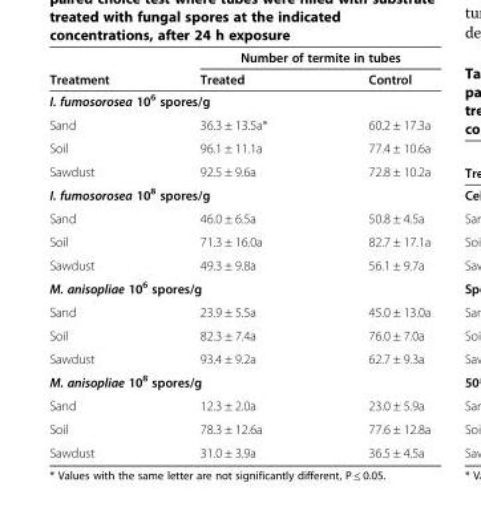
<table><thead><tr><td rowspan="2">Treatment</td><td colspan="2">Number of termite in tubes</td></tr><tr><td>Treated</td><td>Control</td></tr></thead><tbody><tr><td colspan="3">I. fumosorosea 10<sup>6</sup> spores/g</td></tr><tr><td>Sand</td><td>36.3 ± 13.5a*</td><td>60.2 ± 17.3a</td></tr><tr><td>Soil</td><td>96.1 ± 11.1a</td><td>77.4 ± 10.6a</td></tr><tr><td>Sawdust</td><td>92.5 ± 9.6a</td><td>72.8 ± 10.2a</td></tr><tr><td colspan="3">I. fumosorosea 10<sup>8</sup> spores/g</td></tr><tr><td>Sand</td><td>46.0 ± 6.5a</td><td>50.8 ± 4.5a</td></tr><tr><td>Soil</td><td>71.3 ± 16.0a</td><td>82.7 ± 17.1a</td></tr><tr><td>Sawdust</td><td>49.3 ± 9.8a</td><td>56.1 ± 9.7a</td></tr><tr><td colspan="3">M. anisopliae 10<sup>6</sup> spores/g</td></tr><tr><td>Sand</td><td>23.9 ± 5.5a</td><td>45.0 ± 13.0a</td></tr><tr><td>Soil</td><td>82.3 ± 7.4a</td><td>76.0 ± 7.0a</td></tr><tr><td>Sawdust</td><td>93.4 ± 9.2a</td><td>62.7 ± 9.3a</td></tr><tr><td colspan="3">M. anisopliae 10<sup>8</sup> spores/g</td></tr><tr><td>Sand</td><td>12.3 ± 2.0a</td><td>23.0 ± 5.9a</td></tr><tr><td>Soil</td><td>78.3 ± 12.6a</td><td>77.6 ± 12.8a</td></tr><tr><td>Sawdust</td><td>31.0 ± 3.9a</td><td>36.5 ± 4.5a</td></tr></tbody></table>